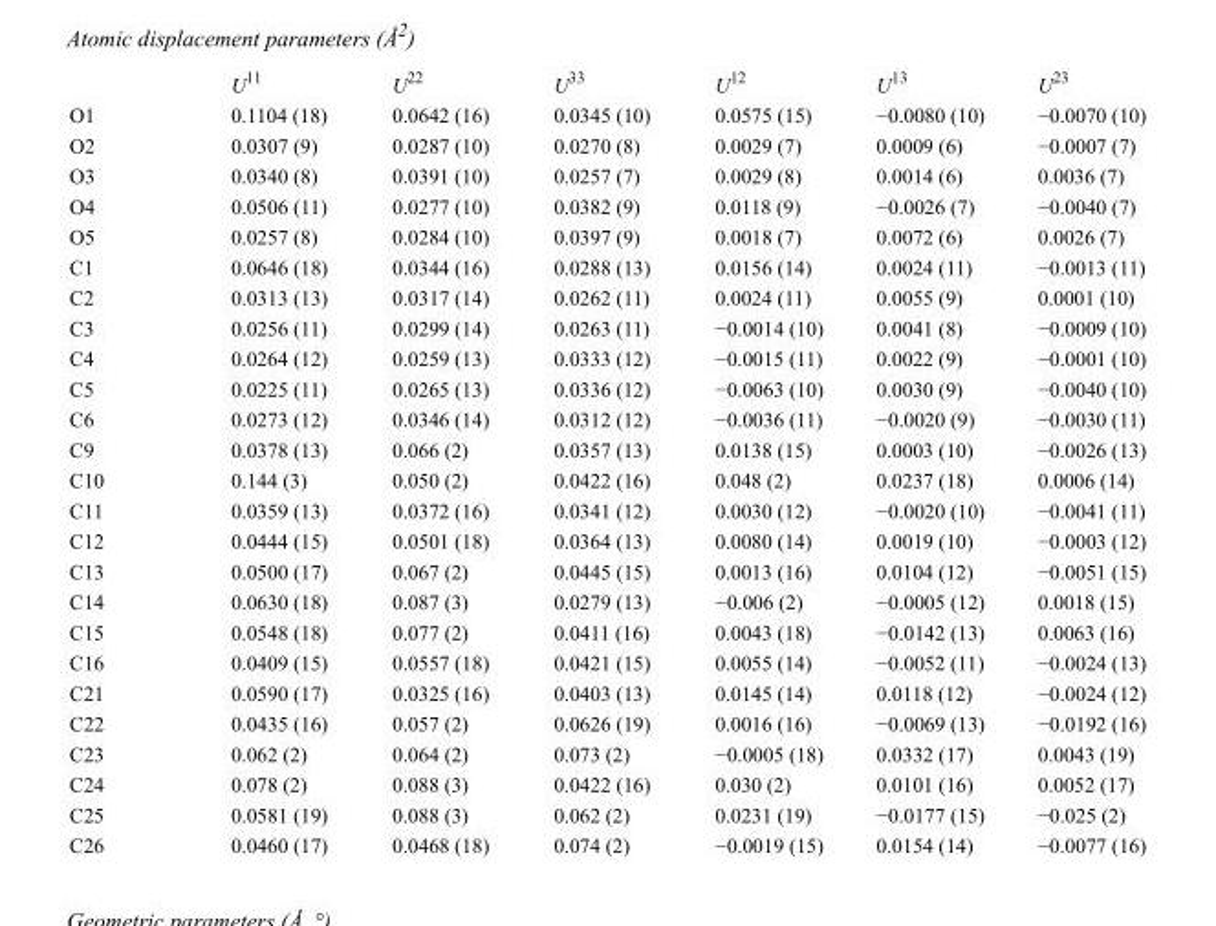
<table><thead><tr><td></td><td>U<sup>11</sup></td><td>U<sup>22</sup></td><td>U<sup>33</sup></td><td>U<sup>12</sup></td><td>U<sup>13</sup></td><td>U<sup>23</sup></td></tr></thead><tbody><tr><td>O1</td><td>0.1104 (18)</td><td>0.0642 (16)</td><td>0.0345 (10)</td><td>0.0575 (15)</td><td>−0.0080 (10)</td><td>−0.0070 (10)</td></tr><tr><td>O2</td><td>0.0307 (9)</td><td>0.0287 (10)</td><td>0.0270 (8)</td><td>0.0029 (7)</td><td>0.0009 (6)</td><td>−0.0007 (7)</td></tr><tr><td>O3</td><td>0.0340 (8)</td><td>0.0391 (10)</td><td>0.0257 (7)</td><td>0.0029 (8)</td><td>0.0014 (6)</td><td>0.0036 (7)</td></tr><tr><td>O4</td><td>0.0506 (11)</td><td>0.0277 (10)</td><td>0.0382 (9)</td><td>0.0118 (9)</td><td>−0.0026 (7)</td><td>−0.0040 (7)</td></tr><tr><td>O5</td><td>0.0257 (8)</td><td>0.0284 (10)</td><td>0.0397 (9)</td><td>0.0018 (7)</td><td>0.0072 (6)</td><td>0.0026 (7)</td></tr><tr><td>C1</td><td>0.0646 (18)</td><td>0.0344 (16)</td><td>0.0288 (13)</td><td>0.0156 (14)</td><td>0.0024 (11)</td><td>−0.0013 (11)</td></tr><tr><td>C2</td><td>0.0313 (13)</td><td>0.0317 (14)</td><td>0.0262 (11)</td><td>0.0024 (11)</td><td>0.0055 (9)</td><td>0.0001 (10)</td></tr><tr><td>C3</td><td>0.0256 (11)</td><td>0.0299 (14)</td><td>0.0263 (11)</td><td>−0.0014 (10)</td><td>0.0041 (8)</td><td>−0.0009 (10)</td></tr><tr><td>C4</td><td>0.0264 (12)</td><td>0.0259 (13)</td><td>0.0333 (12)</td><td>−0.0015 (11)</td><td>0.0022 (9)</td><td>−0.0001 (10)</td></tr><tr><td>C5</td><td>0.0225 (11)</td><td>0.0265 (13)</td><td>0.0336 (12)</td><td>−0.0063 (10)</td><td>0.0030 (9)</td><td>−0.0040 (10)</td></tr><tr><td>C6</td><td>0.0273 (12)</td><td>0.0346 (14)</td><td>0.0312 (12)</td><td>−0.0036 (11)</td><td>−0.0020 (9)</td><td>−0.0030 (11)</td></tr><tr><td>C9</td><td>0.0378 (13)</td><td>0.066 (2)</td><td>0.0357 (13)</td><td>0.0138 (15)</td><td>0.0003 (10)</td><td>−0.0026 (13)</td></tr><tr><td>C10</td><td>0.144 (3)</td><td>0.050 (2)</td><td>0.0422 (16)</td><td>0.048 (2)</td><td>0.0237 (18)</td><td>0.0006 (14)</td></tr><tr><td>C11</td><td>0.0359 (13)</td><td>0.0372 (16)</td><td>0.0341 (12)</td><td>0.0030 (12)</td><td>−0.0020 (10)</td><td>−0.0041 (11)</td></tr><tr><td>C12</td><td>0.0444 (15)</td><td>0.0501 (18)</td><td>0.0364 (13)</td><td>0.0080 (14)</td><td>0.0019 (10)</td><td>−0.0003 (12)</td></tr><tr><td>C13</td><td>0.0500 (17)</td><td>0.067 (2)</td><td>0.0445 (15)</td><td>0.0013 (16)</td><td>0.0104 (12)</td><td>−0.0051 (15)</td></tr><tr><td>C14</td><td>0.0630 (18)</td><td>0.087 (3)</td><td>0.0279 (13)</td><td>−0.006 (2)</td><td>−0.0005 (12)</td><td>0.0018 (15)</td></tr><tr><td>C15</td><td>0.0548 (18)</td><td>0.077 (2)</td><td>0.0411 (16)</td><td>0.0043 (18)</td><td>−0.0142 (13)</td><td>0.0063 (16)</td></tr><tr><td>C16</td><td>0.0409 (15)</td><td>0.0557 (18)</td><td>0.0421 (15)</td><td>0.0055 (14)</td><td>−0.0052 (11)</td><td>−0.0024 (13)</td></tr><tr><td>C21</td><td>0.0590 (17)</td><td>0.0325 (16)</td><td>0.0403 (13)</td><td>0.0145 (14)</td><td>0.0118 (12)</td><td>−0.0024 (12)</td></tr><tr><td>C22</td><td>0.0435 (16)</td><td>0.057 (2)</td><td>0.0626 (19)</td><td>0.0016 (16)</td><td>−0.0069 (13)</td><td>−0.0192 (16)</td></tr><tr><td>C23</td><td>0.062 (2)</td><td>0.064 (2)</td><td>0.073 (2)</td><td>−0.0005 (18)</td><td>0.0332 (17)</td><td>0.0043 (19)</td></tr><tr><td>C24</td><td>0.078 (2)</td><td>0.088 (3)</td><td>0.0422 (16)</td><td>0.030 (2)</td><td>0.0101 (16)</td><td>0.0052 (17)</td></tr><tr><td>C25</td><td>0.0581 (19)</td><td>0.088 (3)</td><td>0.062 (2)</td><td>0.0231 (19)</td><td>−0.0177 (15)</td><td>−0.025 (2)</td></tr><tr><td>C26</td><td>0.0460 (17)</td><td>0.0468 (18)</td><td>0.074 (2)</td><td>−0.0019 (15)</td><td>0.0154 (14)</td><td>−0.0077 (16)</td></tr></tbody></table>